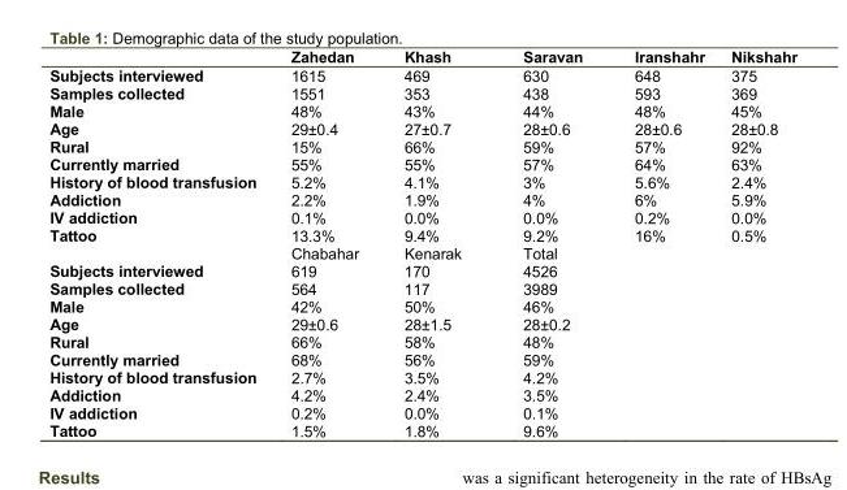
<table><thead><tr><td></td><td>Zahedan</td><td>Khash</td><td>Saravan</td><td>Iranshahr</td><td>Nikshahr</td></tr></thead><tbody><tr><td>Subjects interviewed</td><td>1615</td><td>469</td><td>630</td><td>648</td><td>375</td></tr><tr><td>Samples collected</td><td>1551</td><td>353</td><td>438</td><td>593</td><td>369</td></tr><tr><td>Male</td><td>48%</td><td>43%</td><td>44%</td><td>48%</td><td>45%</td></tr><tr><td>Age</td><td>29±0.4</td><td>27±0.7</td><td>28±0.6</td><td>28±0.6</td><td>28±0.8</td></tr><tr><td>Rural</td><td>15%</td><td>66%</td><td>59%</td><td>57%</td><td>92%</td></tr><tr><td>Currently married</td><td>55%</td><td>55%</td><td>57%</td><td>64%</td><td>63%</td></tr><tr><td>History of blood transfusion</td><td>5.2%</td><td>4.1%</td><td>3%</td><td>5.6%</td><td>2.4%</td></tr><tr><td>Addiction</td><td>2.2%</td><td>1.9%</td><td>4%</td><td>6%</td><td>5.9%</td></tr><tr><td>IV addiction</td><td>0.1%</td><td>0.0%</td><td>0.0%</td><td>0.2%</td><td>0.0%</td></tr><tr><td rowspan="2">Tattoo</td><td>13.3%</td><td>9.4%</td><td>9.2%</td><td>16%</td><td>0.5%</td></tr><tr><td>Chabahar</td><td>Kenarak</td><td>Total</td><td></td><td></td></tr><tr><td>Subjects interviewed</td><td>619</td><td>170</td><td>4526</td><td></td><td></td></tr><tr><td>Samples collected</td><td>564</td><td>117</td><td>3989</td><td></td><td></td></tr><tr><td>Male</td><td>42%</td><td>50%</td><td>46%</td><td></td><td></td></tr><tr><td>Age</td><td>29±0.6</td><td>28±1.5</td><td>28±0.2</td><td></td><td></td></tr><tr><td>Rural</td><td>66%</td><td>58%</td><td>48%</td><td></td><td></td></tr><tr><td>Currently married</td><td>68%</td><td>56%</td><td>59%</td><td></td><td></td></tr><tr><td>History of blood transfusion</td><td>2.7%</td><td>3.5%</td><td>4.2%</td><td></td><td></td></tr><tr><td>Addiction</td><td>4.2%</td><td>2.4%</td><td>3.5%</td><td></td><td></td></tr><tr><td>IV addiction</td><td>0.2%</td><td>0.0%</td><td>0.1%</td><td></td><td></td></tr><tr><td>Tattoo</td><td>1.5%</td><td>1.8%</td><td>9.6%</td><td></td><td></td></tr></tbody></table>